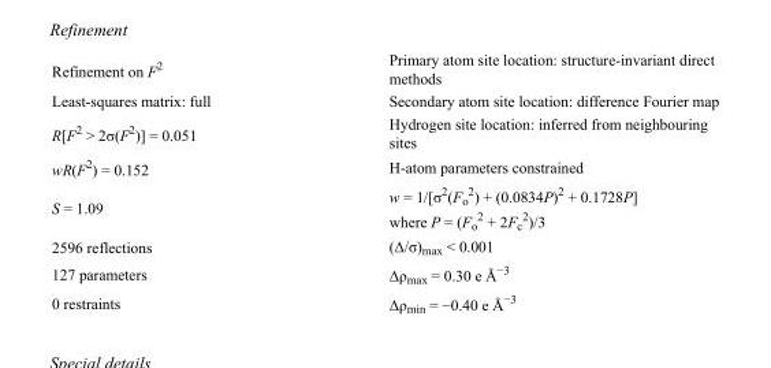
<table><tbody><tr><td>Refinement on F<sup>2</sup></td><td>Primary atom site location: structure-invariant direct methods</td></tr><tr><td>Least-squares matrix: full</td><td>Secondary atom site location: difference Fourier map</td></tr><tr><td>R[F<sup>2</sup> &gt; 2σ(F<sup>2</sup>)] = 0.051</td><td>Hydrogen site location: inferred from neighbouring sites</td></tr><tr><td>wR(F<sup>2</sup>) = 0.152</td><td>H-atom parameters constrained</td></tr><tr><td>S = 1.09</td><td>w = 1/[σ<sup>2</sup>(F<sub>o</sub> <sup>2</sup>) + (0.0834P)<sup>2</sup> + 0.1728P] where P = (F<sub>o</sub> <sup>2</sup> + 2F<sub>c</sub> <sup>2</sup>)/3</td></tr><tr><td>2596 reflections</td><td>(Δ/σ)<sub>max</sub> &lt; 0.001</td></tr><tr><td>127 parameters</td><td>Δρ<sub>max</sub> = 0.30 e Å<sup>−3</sup></td></tr><tr><td>0 restraints</td><td>Δρ<sub>min</sub> = −0.40 e Å<sup>−3</sup></td></tr></tbody></table>